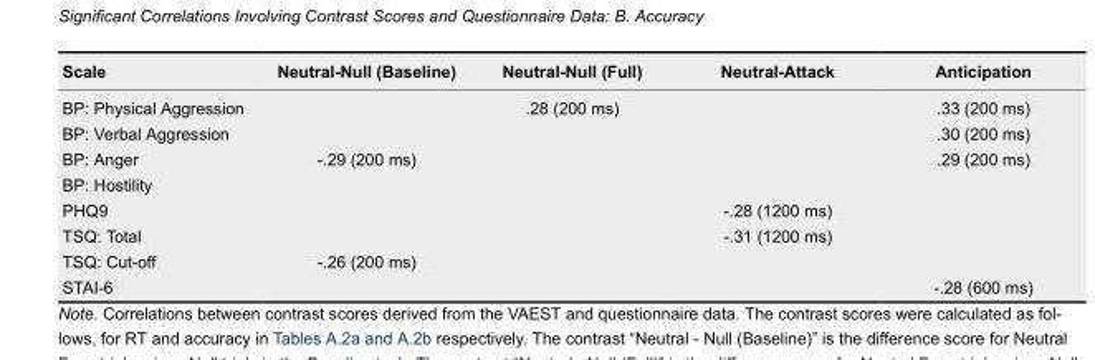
<table><thead><tr><td>Scale</td><td>Neutral-Null (Baseline)</td><td>Neutral-Null (Full)</td><td>Neutral-Attack</td><td>Anticipation</td></tr></thead><tbody><tr><td>BP: Physical Aggression</td><td></td><td>.28 (200 ms)</td><td></td><td>.33 (200 ms)</td></tr><tr><td>BP: Verbal Aggression</td><td></td><td></td><td></td><td>.30 (200 ms)</td></tr><tr><td>BP: Anger</td><td>-.29 (200 ms)</td><td></td><td></td><td>.29 (200 ms)</td></tr><tr><td colspan="5">BP: Hostility</td></tr><tr><td>PHQ9</td><td></td><td></td><td>-.28 (1200 ms)</td><td></td></tr><tr><td>TSQ: Total</td><td></td><td></td><td>-.31 (1200 ms)</td><td></td></tr><tr><td>TSQ: Cut-off</td><td>-.26 (200 ms)</td><td></td><td></td><td></td></tr><tr><td>STAI-6</td><td></td><td></td><td></td><td>-.28 (600 ms)</td></tr></tbody></table>